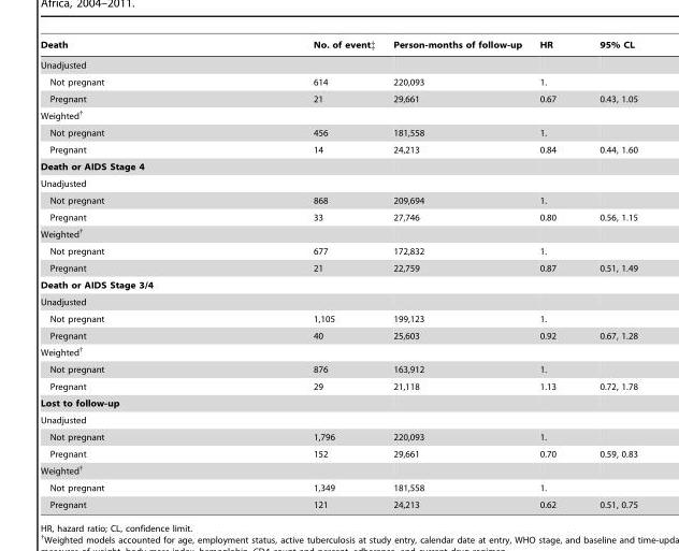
<table><thead><tr><td>Death</td><td>No. of event‡</td><td>Person-months of follow-up</td><td>HR</td><td>95% CL</td></tr></thead><tbody><tr><td colspan="5">Unadjusted</td></tr><tr><td>Not pregnant</td><td>614</td><td>220,093</td><td>1.</td><td></td></tr><tr><td>Pregnant</td><td>21</td><td>29,661</td><td>0.67</td><td>0.43, 1.05</td></tr><tr><td colspan="5">Weighted†</td></tr><tr><td>Not pregnant</td><td>456</td><td>181,558</td><td>1.</td><td></td></tr><tr><td>Pregnant</td><td>14</td><td>24,213</td><td>0.84</td><td>0.44, 1.60</td></tr><tr><td colspan="5">Death or AIDS Stage 4</td></tr><tr><td colspan="5">Unadjusted</td></tr><tr><td>Not pregnant</td><td>868</td><td>209,694</td><td>1.</td><td></td></tr><tr><td>Pregnant</td><td>33</td><td>27,746</td><td>0.80</td><td>0.56, 1.15</td></tr><tr><td colspan="5">Weighted†</td></tr><tr><td>Not pregnant</td><td>677</td><td>172,832</td><td>1.</td><td></td></tr><tr><td>Pregnant</td><td>21</td><td>22,759</td><td>0.87</td><td>0.51, 1.49</td></tr><tr><td colspan="5">Death or AIDS Stage 3/4</td></tr><tr><td colspan="5">Unadjusted</td></tr><tr><td>Not pregnant</td><td>1,105</td><td>199,123</td><td>1.</td><td></td></tr><tr><td>Pregnant</td><td>40</td><td>25,603</td><td>0.92</td><td>0.67, 1.28</td></tr><tr><td colspan="5">Weighted†</td></tr><tr><td>Not pregnant</td><td>876</td><td>163,912</td><td>1.</td><td></td></tr><tr><td>Pregnant</td><td>29</td><td>21,118</td><td>1.13</td><td>0.72, 1.78</td></tr><tr><td colspan="5">Lost to follow-up</td></tr><tr><td colspan="5">Unadjusted</td></tr><tr><td>Not pregnant</td><td>1,796</td><td>220,093</td><td>1.</td><td></td></tr><tr><td>Pregnant</td><td>152</td><td>29,661</td><td>0.70</td><td>0.59, 0.83</td></tr><tr><td colspan="5">Weighted†</td></tr><tr><td>Not pregnant</td><td>1,349</td><td>181,558</td><td>1.</td><td></td></tr><tr><td>Pregnant</td><td>121</td><td>24,213</td><td>0.62</td><td>0.51, 0.75</td></tr></tbody></table>